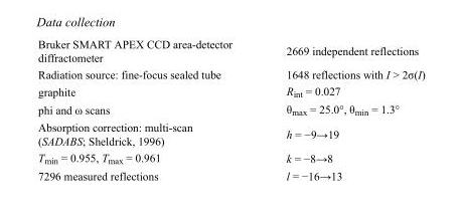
<table><tbody><tr><td>Bruker SMART APEX CCD area-detector diffractometer</td><td>2669 independent reflections</td></tr><tr><td>Radiation source: fine-focus sealed tube</td><td>1648 reflections with I &gt; 2σ(I)</td></tr><tr><td>graphite</td><td>R<sub>int</sub> = 0.027</td></tr><tr><td>phi and ω scans</td><td>θ<sub>max</sub> = 25.0°, θ<sub>min</sub> = 1.3°</td></tr><tr><td>Absorption correction: multi-scan (SADABS; Sheldrick, 1996)</td><td>h = −9→19</td></tr><tr><td>T<sub>min</sub> = 0.955, T<sub>max</sub> = 0.961</td><td>k = −8→8</td></tr><tr><td>7296 measured reflections</td><td>l = −16→13</td></tr></tbody></table>